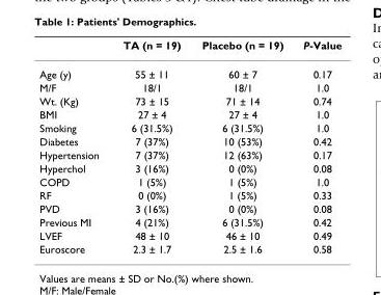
<table><thead><tr><td></td><td>TA (n = 19)</td><td>Placebo (n = 19)</td><td>P-Value</td></tr></thead><tbody><tr><td>Age (y)</td><td>55 ± 11</td><td>60 ± 7</td><td>0.17</td></tr><tr><td>M/F</td><td>18/1</td><td>18/1</td><td>1.0</td></tr><tr><td>Wt. (Kg)</td><td>73 ± 15</td><td>71 ± 14</td><td>0.74</td></tr><tr><td>BMI</td><td>27 ± 4</td><td>27 ± 4</td><td>1.0</td></tr><tr><td>Smoking</td><td>6 (31.5%)</td><td>6 (31.5%)</td><td>1.0</td></tr><tr><td>Diabetes</td><td>7 (37%)</td><td>10 (53%)</td><td>0.42</td></tr><tr><td>Hypertension</td><td>7 (37%)</td><td>12 (63%)</td><td>0.17</td></tr><tr><td>Hyperchol</td><td>3 (16%)</td><td>0 (0%)</td><td>0.08</td></tr><tr><td>COPD</td><td>1 (5%)</td><td>1 (5%)</td><td>1.0</td></tr><tr><td>RF</td><td>0 (0%)</td><td>1 (5%)</td><td>0.33</td></tr><tr><td>PVD</td><td>3 (16%)</td><td>0 (0%)</td><td>0.08</td></tr><tr><td>Previous MI</td><td>4 (21%)</td><td>6 (31.5%)</td><td>0.42</td></tr><tr><td>LVEF</td><td>48 ± 10</td><td>46 ± 10</td><td>0.49</td></tr><tr><td>Euroscore</td><td>2.3 ± 1.7</td><td>2.5 ± 1.6</td><td>0.58</td></tr></tbody></table>